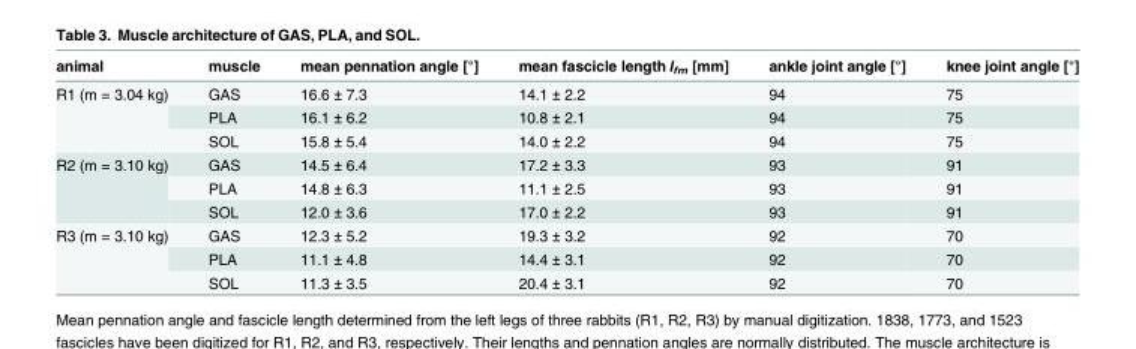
<table><thead><tr><td>animal</td><td>muscle</td><td>mean pennation angle [°]</td><td>mean fascicle length l<sub>fm</sub> [mm]</td><td>ankle joint angle [°]</td><td>knee joint angle [°]</td></tr></thead><tbody><tr><td rowspan="3">R1 (m = 3.04 kg)</td><td>GAS</td><td>16.6 ± 7.3</td><td>14.1 ± 2.2</td><td>94</td><td>75</td></tr><tr><td>PLA</td><td>16.1 ± 6.2</td><td>10.8 ± 2.1</td><td>94</td><td>75</td></tr><tr><td>SOL</td><td>15.8 ± 5.4</td><td>14.0 ± 2.2</td><td>94</td><td>75</td></tr><tr><td rowspan="3">R2 (m = 3.10 kg)</td><td>GAS</td><td>14.5 ± 6.4</td><td>17.2 ± 3.3</td><td>93</td><td>91</td></tr><tr><td>PLA</td><td>14.8 ± 6.3</td><td>11.1 ± 2.5</td><td>93</td><td>91</td></tr><tr><td>SOL</td><td>12.0 ± 3.6</td><td>17.0 ± 2.2</td><td>93</td><td>91</td></tr><tr><td rowspan="3">R3 (m = 3.10 kg)</td><td>GAS</td><td>12.3 ± 5.2</td><td>19.3 ± 3.2</td><td>92</td><td>70</td></tr><tr><td>PLA</td><td>11.1 ± 4.8</td><td>14.4 ± 3.1</td><td>92</td><td>70</td></tr><tr><td>SOL</td><td>11.3 ± 3.5</td><td>20.4 ± 3.1</td><td>92</td><td>70</td></tr></tbody></table>